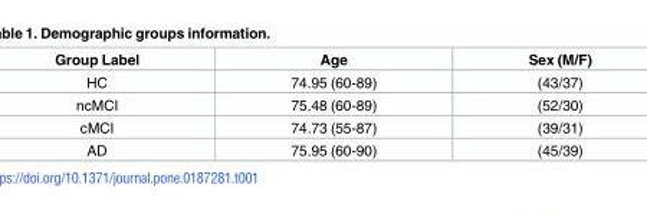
<table><thead><tr><td>Group Label</td><td>Age</td><td>Sex (M/F)</td></tr></thead><tbody><tr><td>HC</td><td>74.95 (60-89)</td><td>(43/37)</td></tr><tr><td>ncMCI</td><td>75.48 (60-89)</td><td>(52/30)</td></tr><tr><td>cMCI</td><td>74.73 (55-87)</td><td>(39/31)</td></tr><tr><td>AD</td><td>75.95 (60-90)</td><td>(45/39)</td></tr></tbody></table>